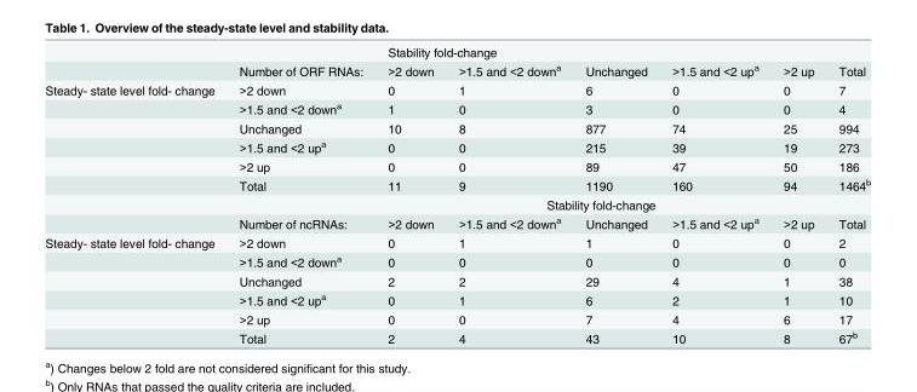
<table><thead><tr><td rowspan="2"></td><td rowspan="2">Number of ORF RNAs:</td><td colspan="5">Stability fold-change</td><td rowspan="2">Total</td></tr><tr><td>&gt;2 down</td><td>&gt;1.5 and &lt;2 down<sup>a</sup></td><td>Unchanged</td><td>&gt;1.5 and &lt;2 up<sup>a</sup></td><td>&gt;2 up</td></tr></thead><tbody><tr><td rowspan="8">Steady- state level fold- change</td><td>&gt;2 down</td><td>0</td><td>1</td><td>6</td><td>0</td><td>0</td><td>7</td></tr><tr><td>&gt;1.5 and &lt;2 down<sup>a</sup></td><td>1</td><td>0</td><td>3</td><td>0</td><td>0</td><td>4</td></tr><tr><td>Unchanged</td><td>10</td><td>8</td><td>877</td><td>74</td><td>25</td><td>994</td></tr><tr><td>&gt;1.5 and &lt;2 up<sup>a</sup></td><td>0</td><td>0</td><td>215</td><td>39</td><td>19</td><td>273</td></tr><tr><td>&gt;2 up</td><td>0</td><td>0</td><td>89</td><td>47</td><td>50</td><td>186</td></tr><tr><td>Total</td><td>11</td><td>9</td><td>1190</td><td>160</td><td>94</td><td>1464<sup>b</sup></td></tr><tr><td></td><td colspan="5">Stability fold-change</td><td></td></tr><tr><td>Number of ncRNAs:</td><td>&gt;2 down</td><td>&gt;1.5 and &lt;2 down<sup>a</sup></td><td>Unchanged</td><td>&gt;1.5 and &lt;2 up<sup>a</sup></td><td>&gt;2 up</td><td>Total</td></tr><tr><td rowspan="6">Steady- state level fold- change</td><td>&gt;2 down</td><td>0</td><td>1</td><td>1</td><td>0</td><td>0</td><td>2</td></tr><tr><td>&gt;1.5 and &lt;2 down<sup>a</sup></td><td>0</td><td>0</td><td>0</td><td>0</td><td>0</td><td>0</td></tr><tr><td>Unchanged</td><td>2</td><td>2</td><td>29</td><td>4</td><td>1</td><td>38</td></tr><tr><td>&gt;1.5 and &lt;2 up<sup>a</sup></td><td>0</td><td>1</td><td>6</td><td>2</td><td>1</td><td>10</td></tr><tr><td>&gt;2 up</td><td>0</td><td>0</td><td>7</td><td>4</td><td>6</td><td>17</td></tr><tr><td>Total</td><td>2</td><td>4</td><td>43</td><td>10</td><td>8</td><td>67<sup>b</sup></td></tr></tbody></table>